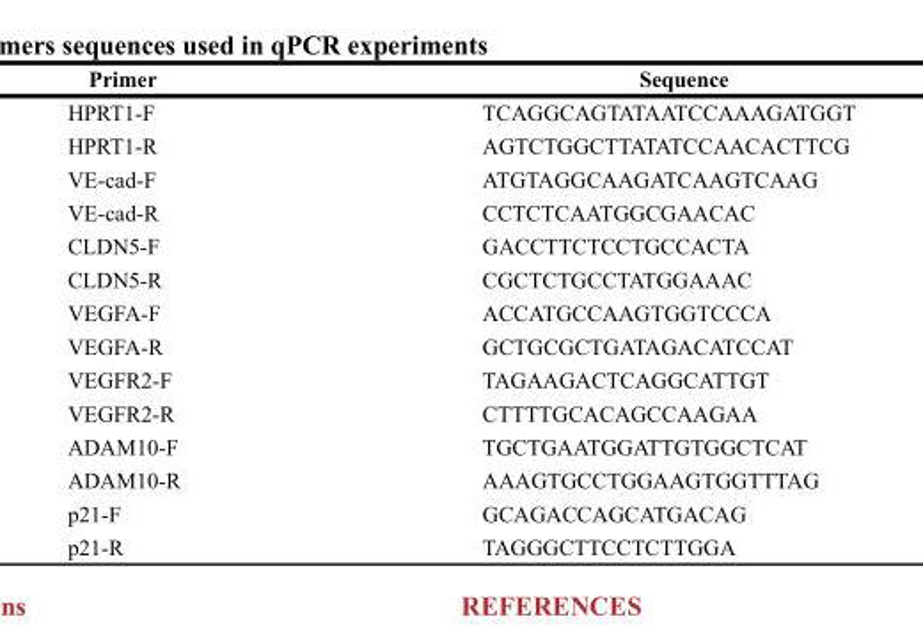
<table><thead><tr><td>Primer</td><td>Sequence</td></tr></thead><tbody><tr><td>HPRT1-F</td><td>TCAGGCAGTATAATCCAAAGATGGT</td></tr><tr><td>HPRT1-R</td><td>AGTCTGGCTTATATCCAACACTTCG</td></tr><tr><td>VE-cad-F</td><td>ATGTAGGCAAGATCAAGTCAAG</td></tr><tr><td>VE-cad-R</td><td>CCTCTCAATGGCGAACAC</td></tr><tr><td>CLDN5-F</td><td>GACCTTCTCCTGCCACTA</td></tr><tr><td>CLDN5-R</td><td>CGCTCTGCCTATGGAAAC</td></tr><tr><td>VEGFA-F</td><td>ACCATGCCAAGTGGTCCCA</td></tr><tr><td>VEGFA-R</td><td>GCTGCGCTGATAGACATCCAT</td></tr><tr><td>VEGFR2-F</td><td>TAGAAGACTCAGGCATTGT</td></tr><tr><td>VEGFR2-R</td><td>CTTTTGCACAGCCAAGAA</td></tr><tr><td>ADAM10-F</td><td>TGCTGAATGGATTGTGGCTCAT</td></tr><tr><td>ADAM10-R</td><td>AAAGTGCCTGGAAGTGGTTTAG</td></tr><tr><td>p21-F</td><td>GCAGACCAGCATGACAG</td></tr><tr><td>p21-R</td><td>TAGGGCTTCCTCTTGGA</td></tr></tbody></table>